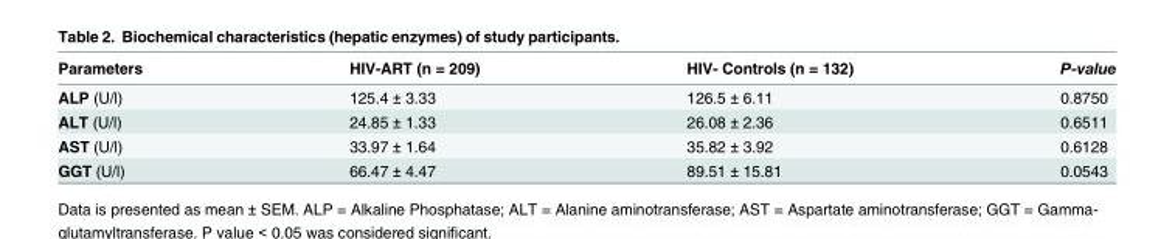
<table><thead><tr><td>Parameters</td><td>HIV-ART (n = 209)</td><td>HIV- Controls (n = 132)</td><td>P-value</td></tr></thead><tbody><tr><td>ALP (U/l)</td><td>125.4 ± 3.33</td><td>126.5 ± 6.11</td><td>0.8750</td></tr><tr><td>ALT (U/l)</td><td>24.85 ± 1.33</td><td>26.08 ± 2.36</td><td>0.6511</td></tr><tr><td>AST (U/l)</td><td>33.97 ± 1.64</td><td>35.82 ± 3.92</td><td>0.6128</td></tr><tr><td>GGT (U/l)</td><td>66.47 ± 4.47</td><td>89.51 ± 15.81</td><td>0.0543</td></tr></tbody></table>